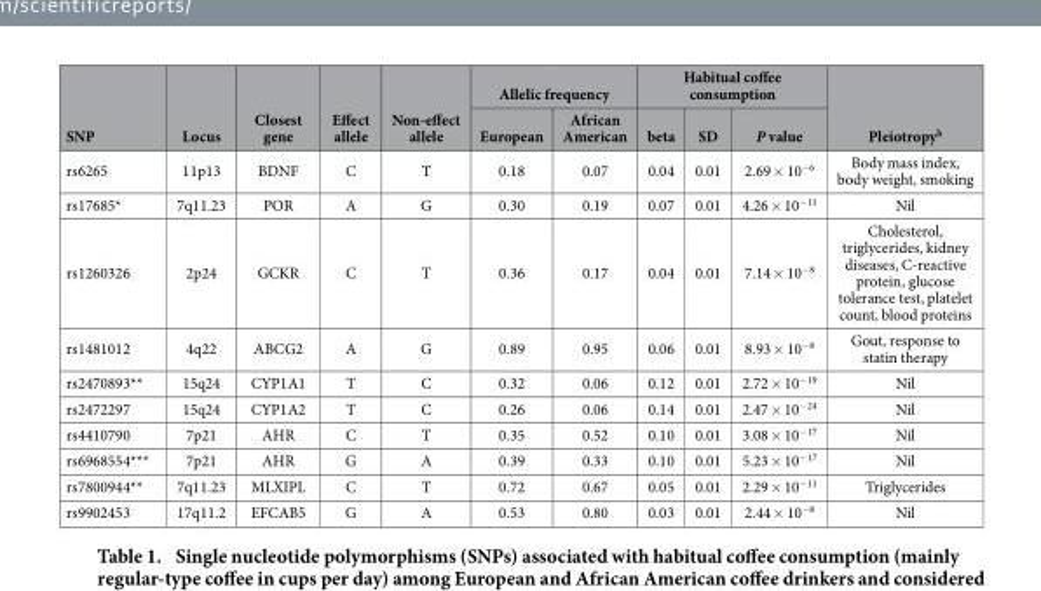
<table><thead><tr><td rowspan="2">SNP</td><td rowspan="2">Locus</td><td rowspan="2">Closest gene</td><td rowspan="2">Effect allele</td><td rowspan="2">Non-effect allele</td><td colspan="2">Allelic frequency</td><td colspan="3">Habitual coffee consumption</td><td rowspan="2">Pleiotropy<sup>b</sup></td></tr><tr><td>European</td><td>African American</td><td>beta</td><td>SD</td><td>P value</td></tr></thead><tbody><tr><td>rs6265</td><td>11p13</td><td>BDNF</td><td>C</td><td>T</td><td>0.18</td><td>0.07</td><td>0.04</td><td>0.01</td><td>2.69 × 10<sup>−6</sup></td><td>Body mass index, body weight, smoking</td></tr><tr><td>rs17685*</td><td>7q11.23</td><td>POR</td><td>A</td><td>G</td><td>0.30</td><td>0.19</td><td>0.07</td><td>0.01</td><td>4.26 × 10<sup>−11</sup></td><td>Nil</td></tr><tr><td>rs1260326</td><td>2p24</td><td>GCKR</td><td>C</td><td>T</td><td>0.36</td><td>0.17</td><td>0.04</td><td>0.01</td><td>7.14 × 10<sup>−8</sup></td><td>Cholesterol, triglycerides, kidney diseases, C-reactive protein, glucose tolerance test, platelet count, blood proteins</td></tr><tr><td>rs1481012</td><td>4q22</td><td>ABCG2</td><td>A</td><td>G</td><td>0.89</td><td>0.95</td><td>0.06</td><td>0.01</td><td>8.93 × 10<sup>−8</sup></td><td>Gout, response to statin therapy</td></tr><tr><td>rs2470893**</td><td>15q24</td><td>CYP1A1</td><td>T</td><td>C</td><td>0.32</td><td>0.06</td><td>0.12</td><td>0.01</td><td>2.72 × 10<sup>−19</sup></td><td>Nil</td></tr><tr><td>rs2472297</td><td>15q24</td><td>CYP1A2</td><td>T</td><td>C</td><td>0.26</td><td>0.06</td><td>0.14</td><td>0.01</td><td>2.47 × 10<sup>−24</sup></td><td>Nil</td></tr><tr><td>rs4410790</td><td>7p21</td><td>AHR</td><td>C</td><td>T</td><td>0.35</td><td>0.52</td><td>0.10</td><td>0.01</td><td>3.08 × 10<sup>−17</sup></td><td>Nil</td></tr><tr><td>rs6968554***</td><td>7p21</td><td>AHR</td><td>G</td><td>A</td><td>0.39</td><td>0.33</td><td>0.10</td><td>0.01</td><td>5.23 × 10<sup>−17</sup></td><td>Nil</td></tr><tr><td>rs7800944**</td><td>7q11.23</td><td>MLXIPL</td><td>C</td><td>T</td><td>0.72</td><td>0.67</td><td>0.05</td><td>0.01</td><td>2.29 × 10<sup>−11</sup></td><td>Triglycerides</td></tr><tr><td>rs9902453</td><td>17q11.2</td><td>EFCAB5</td><td>G</td><td>A</td><td>0.53</td><td>0.80</td><td>0.03</td><td>0.01</td><td>2.44 × 10<sup>−8</sup></td><td>Nil</td></tr></tbody></table>